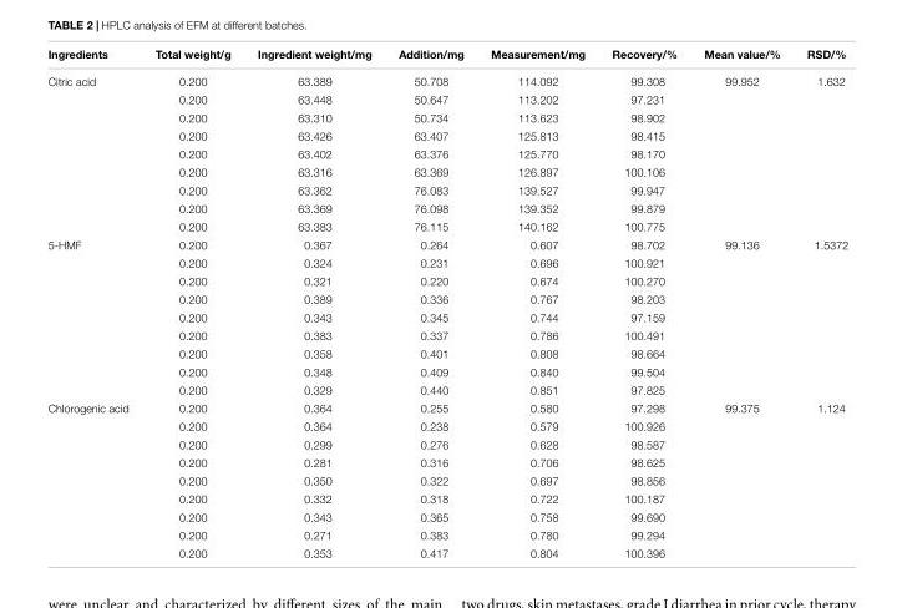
<table><thead><tr><td>Ingredients</td><td>Total weight/g</td><td>Ingredient weight/mg</td><td>Addition/mg</td><td>Measurement/mg</td><td>Recovery/%</td><td>Mean value/%</td><td>RSD/%</td></tr></thead><tbody><tr><td rowspan="9">Citric acid</td><td>0.200</td><td>63.389</td><td>50.708</td><td>114.092</td><td>99.308</td><td>99.952</td><td>1.632</td></tr><tr><td>0.200</td><td>63.448</td><td>50.647</td><td>113.202</td><td>97.231</td><td></td><td></td></tr><tr><td>0.200</td><td>63.310</td><td>50.734</td><td>113.623</td><td>98.902</td><td></td><td></td></tr><tr><td>0.200</td><td>63.426</td><td>63.407</td><td>125.813</td><td>98.415</td><td></td><td></td></tr><tr><td>0.200</td><td>63.402</td><td>63.376</td><td>125.770</td><td>98.170</td><td></td><td></td></tr><tr><td>0.200</td><td>63.316</td><td>63.369</td><td>126.897</td><td>100.106</td><td></td><td></td></tr><tr><td>0.200</td><td>63.362</td><td>76.083</td><td>139.527</td><td>99.947</td><td></td><td></td></tr><tr><td>0.200</td><td>63.369</td><td>76.098</td><td>139.352</td><td>99.879</td><td></td><td></td></tr><tr><td>0.200</td><td>63.383</td><td>76.115</td><td>140.162</td><td>100.775</td><td></td><td></td></tr><tr><td rowspan="9">5-HMF</td><td>0.200</td><td>0.367</td><td>0.264</td><td>0.607</td><td>98.702</td><td>99.136</td><td>1.5372</td></tr><tr><td>0.200</td><td>0.324</td><td>0.231</td><td>0.696</td><td>100.921</td><td></td><td></td></tr><tr><td>0.200</td><td>0.321</td><td>0.220</td><td>0.674</td><td>100.270</td><td></td><td></td></tr><tr><td>0.200</td><td>0.389</td><td>0.336</td><td>0.767</td><td>98.203</td><td></td><td></td></tr><tr><td>0.200</td><td>0.343</td><td>0.345</td><td>0.744</td><td>97.159</td><td></td><td></td></tr><tr><td>0.200</td><td>0.383</td><td>0.337</td><td>0.786</td><td>100.491</td><td></td><td></td></tr><tr><td>0.200</td><td>0.358</td><td>0.401</td><td>0.808</td><td>98.664</td><td></td><td></td></tr><tr><td>0.200</td><td>0.348</td><td>0.409</td><td>0.840</td><td>99.504</td><td></td><td></td></tr><tr><td>0.200</td><td>0.329</td><td>0.440</td><td>0.851</td><td>97.825</td><td></td><td></td></tr><tr><td rowspan="9">Chlorogenic acid</td><td>0.200</td><td>0.364</td><td>0.255</td><td>0.580</td><td>97.298</td><td>99.375</td><td>1.124</td></tr><tr><td>0.200</td><td>0.364</td><td>0.238</td><td>0.579</td><td>100.926</td><td></td><td></td></tr><tr><td>0.200</td><td>0.299</td><td>0.276</td><td>0.628</td><td>98.587</td><td></td><td></td></tr><tr><td>0.200</td><td>0.281</td><td>0.316</td><td>0.706</td><td>98.625</td><td></td><td></td></tr><tr><td>0.200</td><td>0.350</td><td>0.322</td><td>0.697</td><td>98.856</td><td></td><td></td></tr><tr><td>0.200</td><td>0.332</td><td>0.318</td><td>0.722</td><td>100.187</td><td></td><td></td></tr><tr><td>0.200</td><td>0.343</td><td>0.365</td><td>0.758</td><td>99.690</td><td></td><td></td></tr><tr><td>0.200</td><td>0.271</td><td>0.383</td><td>0.780</td><td>99.294</td><td></td><td></td></tr><tr><td>0.200</td><td>0.353</td><td>0.417</td><td>0.804</td><td>100.396</td><td></td><td></td></tr></tbody></table>